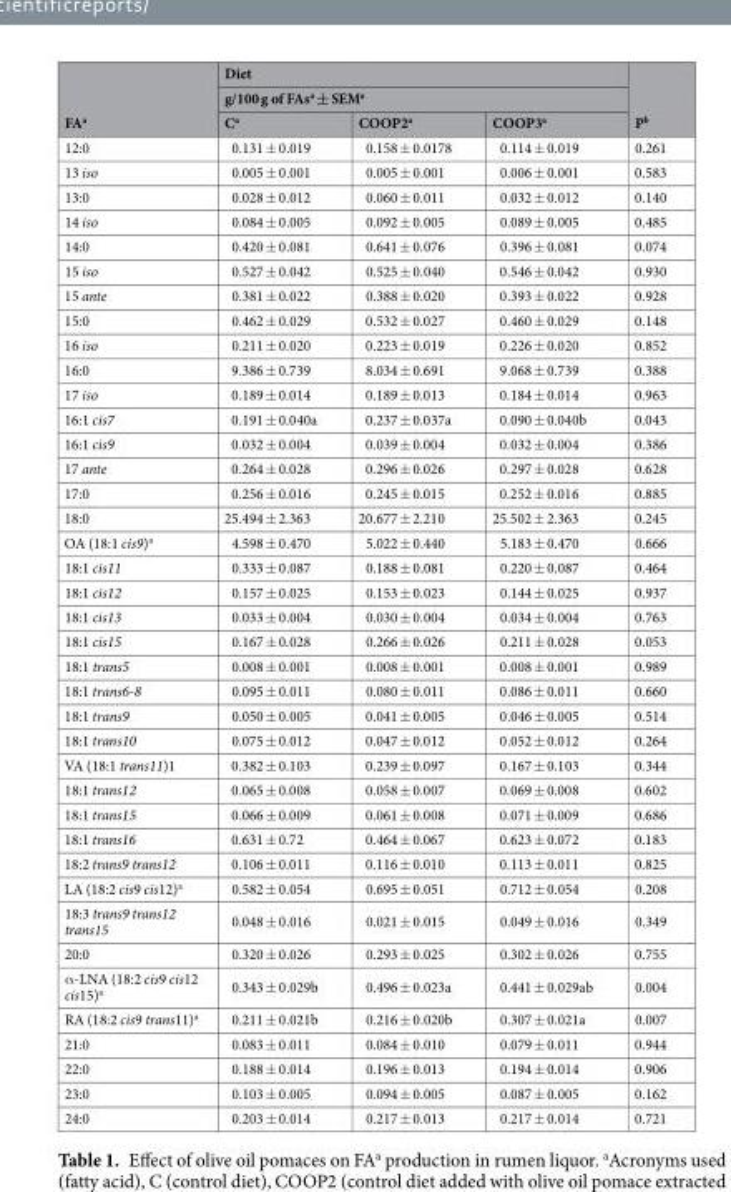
<table><thead><tr><td rowspan="3">FA<sup>a</sup></td><td rowspan="2" colspan="3">Diet g/100 g of FAs<sup>a</sup> ± SEM<sup>a</sup></td><td rowspan="3">P<sup>b</sup></td></tr><tr></tr><tr><td>C<sup>a</sup></td><td>COOP2<sup>a</sup></td><td>COOP3<sup>a</sup></td></tr></thead><tbody><tr><td>12:0</td><td>0.131 ± 0.019</td><td>0.158 ± 0.0178</td><td>0.114 ± 0.019</td><td>0.261</td></tr><tr><td>13 iso</td><td>0.005 ± 0.001</td><td>0.005 ± 0.001</td><td>0.006 ± 0.001</td><td>0.583</td></tr><tr><td>13:0</td><td>0.028 ± 0.012</td><td>0.060 ± 0.011</td><td>0.032 ± 0.012</td><td>0.140</td></tr><tr><td>14 iso</td><td>0.084 ± 0.005</td><td>0.092 ± 0.005</td><td>0.089 ± 0.005</td><td>0.485</td></tr><tr><td>14:0</td><td>0.420 ± 0.081</td><td>0.641 ± 0.076</td><td>0.396 ± 0.081</td><td>0.074</td></tr><tr><td>15 iso</td><td>0.527 ± 0.042</td><td>0.525 ± 0.040</td><td>0.546 ± 0.042</td><td>0.930</td></tr><tr><td>15 ante</td><td>0.381 ± 0.022</td><td>0.388 ± 0.020</td><td>0.393 ± 0.022</td><td>0.928</td></tr><tr><td>15:0</td><td>0.462 ± 0.029</td><td>0.532 ± 0.027</td><td>0.460 ± 0.029</td><td>0.148</td></tr><tr><td>16 iso</td><td>0.211 ± 0.020</td><td>0.223 ± 0.019</td><td>0.226 ± 0.020</td><td>0.852</td></tr><tr><td>16:0</td><td>9.386 ± 0.739</td><td>8.034 ± 0.691</td><td>9.068 ± 0.739</td><td>0.388</td></tr><tr><td>17 iso</td><td>0.189 ± 0.014</td><td>0.189 ± 0.013</td><td>0.184 ± 0.014</td><td>0.963</td></tr><tr><td>16:1 cis7</td><td>0.191 ± 0.040a</td><td>0.237 ± 0.037a</td><td>0.090 ± 0.040b</td><td>0.043</td></tr><tr><td>16:1 cis9</td><td>0.032 ± 0.004</td><td>0.039 ± 0.004</td><td>0.032 ± 0.004</td><td>0.386</td></tr><tr><td>17 ante</td><td>0.264 ± 0.028</td><td>0.296 ± 0.026</td><td>0.297 ± 0.028</td><td>0.628</td></tr><tr><td>17:0</td><td>0.256 ± 0.016</td><td>0.245 ± 0.015</td><td>0.252 ± 0.016</td><td>0.885</td></tr><tr><td>18:0</td><td>25.494 ± 2.363</td><td>20.677 ± 2.210</td><td>25.502 ± 2.363</td><td>0.245</td></tr><tr><td>OA (18:1 cis9)<sup>a</sup></td><td>4.598 ± 0.470</td><td>5.022 ± 0.440</td><td>5.183 ± 0.470</td><td>0.666</td></tr><tr><td>18:1 cis11</td><td>0.333 ± 0.087</td><td>0.188 ± 0.081</td><td>0.220 ± 0.087</td><td>0.464</td></tr><tr><td>18:1 cis12</td><td>0.157 ± 0.025</td><td>0.153 ± 0.023</td><td>0.144 ± 0.025</td><td>0.937</td></tr><tr><td>18:1 cis13</td><td>0.033 ± 0.004</td><td>0.030 ± 0.004</td><td>0.034 ± 0.004</td><td>0.763</td></tr><tr><td>18:1 cis15</td><td>0.167 ± 0.028</td><td>0.266 ± 0.026</td><td>0.211 ± 0.028</td><td>0.053</td></tr><tr><td>18:1 trans5</td><td>0.008 ± 0.001</td><td>0.008 ± 0.001</td><td>0.008 ± 0.001</td><td>0.989</td></tr><tr><td>18:1 trans6-8</td><td>0.095 ± 0.011</td><td>0.080 ± 0.011</td><td>0.086 ± 0.011</td><td>0.660</td></tr><tr><td>18:1 trans9</td><td>0.050 ± 0.005</td><td>0.041 ± 0.005</td><td>0.046 ± 0.005</td><td>0.514</td></tr><tr><td>18:1 trans10</td><td>0.075 ± 0.012</td><td>0.047 ± 0.012</td><td>0.052 ± 0.012</td><td>0.264</td></tr><tr><td>VA (18:1 trans11)1</td><td>0.382 ± 0.103</td><td>0.239 ± 0.097</td><td>0.167 ± 0.103</td><td>0.344</td></tr><tr><td>18:1 trans12</td><td>0.065 ± 0.008</td><td>0.058 ± 0.007</td><td>0.069 ± 0.008</td><td>0.602</td></tr><tr><td>18:1 trans15</td><td>0.066 ± 0.009</td><td>0.061 ± 0.008</td><td>0.071 ± 0.009</td><td>0.686</td></tr><tr><td>18:1 trans16</td><td>0.631 ± 0.72</td><td>0.464 ± 0.067</td><td>0.623 ± 0.072</td><td>0.183</td></tr><tr><td>18:2 trans9 trans12</td><td>0.106 ± 0.011</td><td>0.116 ± 0.010</td><td>0.113 ± 0.011</td><td>0.825</td></tr><tr><td>LA (18:2 cis9 cis12)<sup>a</sup></td><td>0.582 ± 0.054</td><td>0.695 ± 0.051</td><td>0.712 ± 0.054</td><td>0.208</td></tr><tr><td>18:3 trans9 trans12 trans15</td><td>0.048 ± 0.016</td><td>0.021 ± 0.015</td><td>0.049 ± 0.016</td><td>0.349</td></tr><tr><td>20:0</td><td>0.320 ± 0.026</td><td>0.293 ± 0.025</td><td>0.302 ± 0.026</td><td>0.755</td></tr><tr><td>α-LNA (18:2 cis9 cis12 cis15)<sup>a</sup></td><td>0.343 ± 0.029b</td><td>0.496 ± 0.023a</td><td>0.441 ± 0.029ab</td><td>0.004</td></tr><tr><td>RA (18:2 cis9 trans11)<sup>a</sup></td><td>0.211 ± 0.021b</td><td>0.216 ± 0.020b</td><td>0.307 ± 0.021a</td><td>0.007</td></tr><tr><td>21:0</td><td>0.083 ± 0.011</td><td>0.084 ± 0.010</td><td>0.079 ± 0.011</td><td>0.944</td></tr><tr><td>22:0</td><td>0.188 ± 0.014</td><td>0.196 ± 0.013</td><td>0.194 ± 0.014</td><td>0.906</td></tr><tr><td>23:0</td><td>0.103 ± 0.005</td><td>0.094 ± 0.005</td><td>0.087 ± 0.005</td><td>0.162</td></tr><tr><td>24:0</td><td>0.203 ± 0.014</td><td>0.217 ± 0.013</td><td>0.217 ± 0.014</td><td>0.721</td></tr></tbody></table>